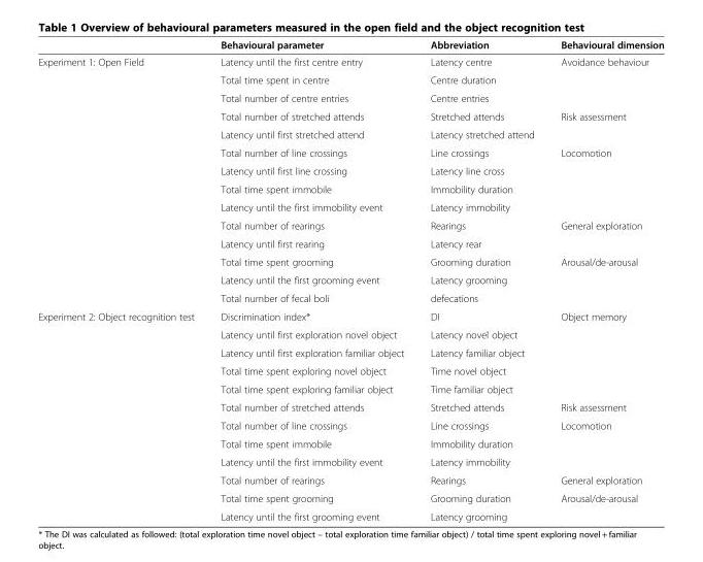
<table><thead><tr><td></td><td>Behavioural parameter</td><td>Abbreviation</td><td>Behavioural dimension</td></tr></thead><tbody><tr><td rowspan="14">Experiment 1: Open Field</td><td>Latency until the first centre entry</td><td>Latency centre</td><td>Avoidance behaviour</td></tr><tr><td>Total time spent in centre</td><td>Centre duration</td><td></td></tr><tr><td>Total number of centre entries</td><td>Centre entries</td><td></td></tr><tr><td>Total number of stretched attends</td><td>Stretched attends</td><td>Risk assessment</td></tr><tr><td>Latency until first stretched attend</td><td>Latency stretched attend</td><td></td></tr><tr><td>Total number of line crossings</td><td>Line crossings</td><td>Locomotion</td></tr><tr><td>Latency until first line crossing</td><td>Latency line cross</td><td></td></tr><tr><td>Total time spent immobile</td><td>Immobility duration</td><td></td></tr><tr><td>Latency until the first immobility event</td><td>Latency immobility</td><td></td></tr><tr><td>Total number of rearings</td><td>Rearings</td><td>General exploration</td></tr><tr><td>Latency until first rearing</td><td>Latency rear</td><td></td></tr><tr><td>Total time spent grooming</td><td>Grooming duration</td><td>Arousal/de-arousal</td></tr><tr><td>Latency until the first grooming event</td><td>Latency grooming</td><td></td></tr><tr><td>Total number of fecal boli</td><td>defecations</td><td></td></tr><tr><td rowspan="12">Experiment 2: Object recognition test</td><td>Discrimination index*</td><td>DI</td><td>Object memory</td></tr><tr><td>Latency until first exploration novel object</td><td>Latency novel object</td><td></td></tr><tr><td>Latency until first exploration familiar object</td><td>Latency familiar object</td><td></td></tr><tr><td>Total time spent exploring novel object</td><td>Time novel object</td><td></td></tr><tr><td>Total time spent exploring familiar object</td><td>Time familiar object</td><td></td></tr><tr><td>Total number of stretched attends</td><td>Stretched attends</td><td>Risk assessment</td></tr><tr><td>Total number of line crossings</td><td>Line crossings</td><td>Locomotion</td></tr><tr><td>Total time spent immobile</td><td>Immobility duration</td><td></td></tr><tr><td>Latency until the first immobility event</td><td>Latency immobility</td><td></td></tr><tr><td>Total number of rearings</td><td>Rearings</td><td>General exploration</td></tr><tr><td>Total time spent grooming</td><td>Grooming duration</td><td>Arousal/de-arousal</td></tr><tr><td>Latency until the first grooming event</td><td>Latency grooming</td><td></td></tr></tbody></table>